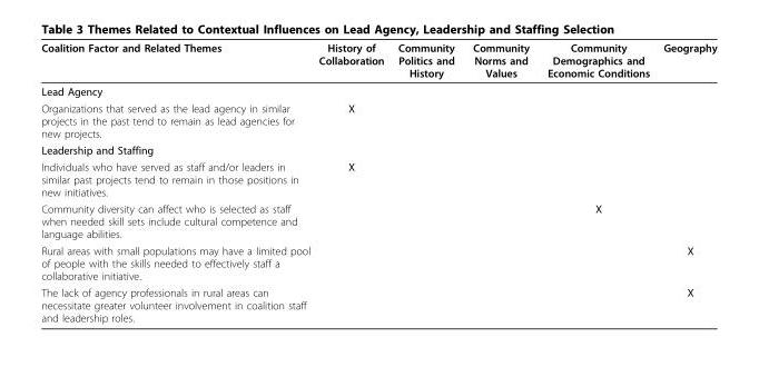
<table><thead><tr><td>Coalition Factor and Related Themes</td><td>History of Collaboration</td><td>Community Politics and History</td><td>Community Norms and Values</td><td>Community Demographics and Economic Conditions</td><td>Geography</td></tr></thead><tbody><tr><td colspan="6">Lead Agency</td></tr><tr><td>Organizations that served as the lead agency in similar projects in the past tend to remain as lead agencies for new projects.</td><td>X</td><td></td><td></td><td></td><td></td></tr><tr><td colspan="6">Leadership and Staffing</td></tr><tr><td>Individuals who have served as staff and/or leaders in similar past projects tend to remain in those positions in new initiatives.</td><td>X</td><td></td><td></td><td></td><td></td></tr><tr><td>Community diversity can affect who is selected as staff when needed skill sets include cultural competence and language abilities.</td><td></td><td></td><td></td><td>X</td><td></td></tr><tr><td>Rural areas with small populations may have a limited pool of people with the skills needed to effectively staff a collaborative initiative.</td><td></td><td></td><td></td><td></td><td>X</td></tr><tr><td>The lack of agency professionals in rural areas can necessitate greater volunteer involvement in coalition staff and leadership roles.</td><td></td><td></td><td></td><td></td><td>X</td></tr></tbody></table>